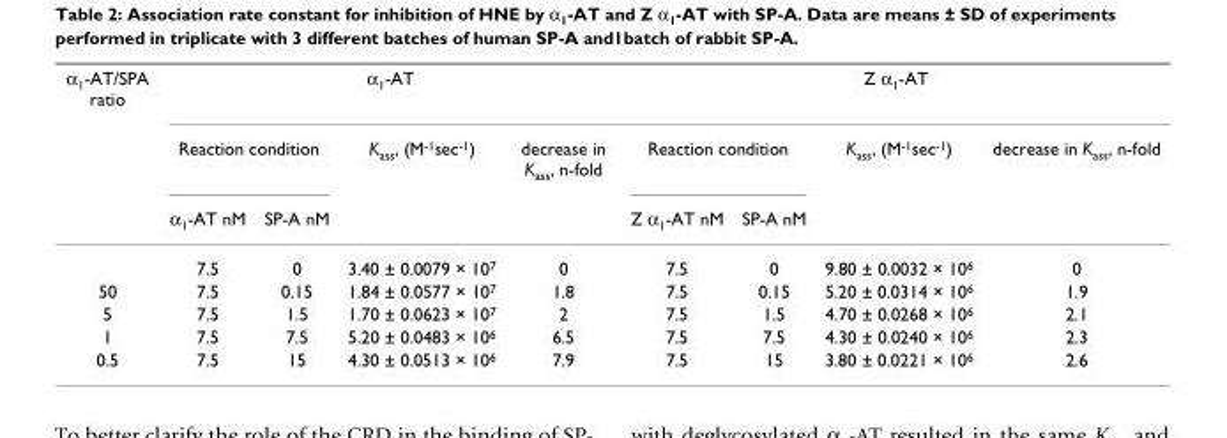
<table><thead><tr><td rowspan="3">α<sub>1</sub>-AT/SPA ratio</td><td colspan="4">α<sub>1</sub>-AT</td><td colspan="4">Z α<sub>1</sub>-AT</td></tr><tr><td colspan="2">Reaction condition</td><td rowspan="2">K<sub>ass</sub>, (M<sup>-1</sup>sec<sup>-1</sup>)</td><td rowspan="2">decrease in K<sub>ass</sub>, n-fold</td><td colspan="2">Reaction condition</td><td rowspan="2">K<sub>ass</sub>, (M<sup>-1</sup>sec<sup>-1</sup>)</td><td rowspan="2">decrease in K<sub>ass</sub>, n-fold</td></tr><tr><td>α<sub>1</sub>-AT nM</td><td>SP-A nM</td><td>Z α<sub>1</sub>-AT nM</td><td>SP-A nM</td></tr></thead><tbody><tr><td></td><td>7.5</td><td>0</td><td>3.40 ± 0.0079 × 10<sup>7</sup></td><td>0</td><td>7.5</td><td>0</td><td>9.80 ± 0.0032 × 10<sup>6</sup></td><td>0</td></tr><tr><td>50</td><td>7.5</td><td>0.15</td><td>1.84 ± 0.0577 × 10<sup>7</sup></td><td>1.8</td><td>7.5</td><td>0.15</td><td>5.20 ± 0.0314 × 10<sup>6</sup></td><td>1.9</td></tr><tr><td>5</td><td>7.5</td><td>1.5</td><td>1.70 ± 0.0623 × 10<sup>7</sup></td><td>2</td><td>7.5</td><td>1.5</td><td>4.70 ± 0.0268 × 10<sup>6</sup></td><td>2.1</td></tr><tr><td>1</td><td>7.5</td><td>7.5</td><td>5.20 ± 0.0483 × 10<sup>6</sup></td><td>6.5</td><td>7.5</td><td>7.5</td><td>4.30 ± 0.0240 × 10<sup>6</sup></td><td>2.3</td></tr><tr><td>0.5</td><td>7.5</td><td>15</td><td>4.30 ± 0.0513 × 10<sup>6</sup></td><td>7.9</td><td>7.5</td><td>15</td><td>3.80 ± 0.0221 × 10<sup>6</sup></td><td>2.6</td></tr></tbody></table>